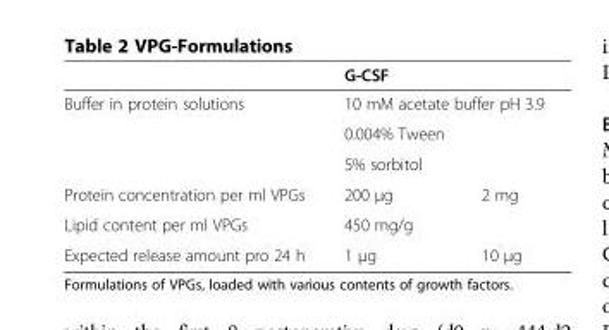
<table><thead><tr><td></td><td colspan="2">G-CSF</td></tr></thead><tbody><tr><td rowspan="3">Buffer in protein solutions</td><td colspan="2">10 mM acetate buffer pH 3.9</td></tr><tr><td colspan="2">0.004% Tween</td></tr><tr><td colspan="2">5% sorbitol</td></tr><tr><td>Protein concentration per ml VPGs</td><td>200 μg</td><td>2 mg</td></tr><tr><td>Lipid content per ml VPGs</td><td colspan="2">450 mg/g</td></tr><tr><td>Expected release amount pro 24 h</td><td>1 μg</td><td>10 μg</td></tr></tbody></table>